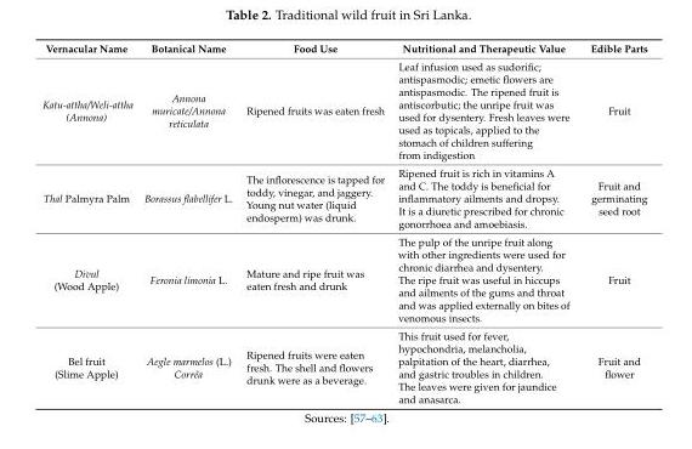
<table><thead><tr><td>Vernacular Name</td><td>Botanical Name</td><td>Food Use</td><td>Nutritional and Therapeutic Value</td><td>Edible Parts</td></tr></thead><tbody><tr><td>Katu-attha/Weli-attha (Annona)</td><td>Annona muricate/Annona reticulata</td><td>Ripened fruits was eaten fresh</td><td>Leaf infusion used as sudorific; antispasmodic; emetic flowers are antispasmodic. The ripened fruit is antiscorbutic; the unripe fruit was used for dysentery. Fresh leaves were used as topicals, applied to the stomach of children suffering from indigestion</td><td>Fruit</td></tr><tr><td>Thal Palmyra Palm</td><td>Borassus flabellifer L.</td><td>The inflorescence is tapped for toddy, vinegar, and jaggery. Young nut water (liquid endosperm) was drunk.</td><td>Ripened fruit is rich in vitamins A and C. The toddy is beneficial for inflammatory ailments and dropsy. It is a diuretic prescribed for chronic gonorrhoea and amoebiasis.</td><td>Fruit and germinating seed root</td></tr><tr><td>Divul (Wood Apple)</td><td>Feronia limonia L.</td><td>Mature and ripe fruit was eaten fresh and drunk</td><td>The pulp of the unripe fruit along with other ingredients were used for chronic diarrhea and dysentery. The ripe fruit was useful in hiccups and ailments of the gums and throat and was applied externally on bites of venomous insects.</td><td>Fruit</td></tr><tr><td>Bel fruit (Slime Apple)</td><td>Aegle marmelos (L.) Corrêa</td><td>Ripened fruits were eaten fresh. The shell and flowers drunk were as a beverage.</td><td>This fruit used for fever, hypochondria, melancholia, palpitation of the heart, diarrhea, and gastric troubles in children. The leaves were given for jaundice and anasarca.</td><td>Fruit and flower</td></tr></tbody></table>